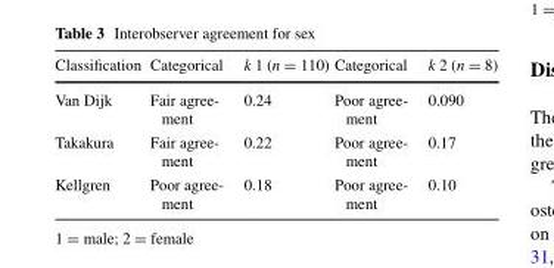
<table><thead><tr><td>Classification</td><td>Categorical</td><td>k 1 (n = 110)</td><td>Categorical</td><td>k 2 (n = 8)</td></tr></thead><tbody><tr><td>Van Dijk</td><td>Fair agree- ment</td><td>0.24</td><td>Poor agree- ment</td><td>0.090</td></tr><tr><td>Takakura</td><td>Fair agree- ment</td><td>0.22</td><td>Poor agree- ment</td><td>0.17</td></tr><tr><td>Kellgren</td><td>Poor agree- ment</td><td>0.18</td><td>Poor agree- ment</td><td>0.10</td></tr></tbody></table>